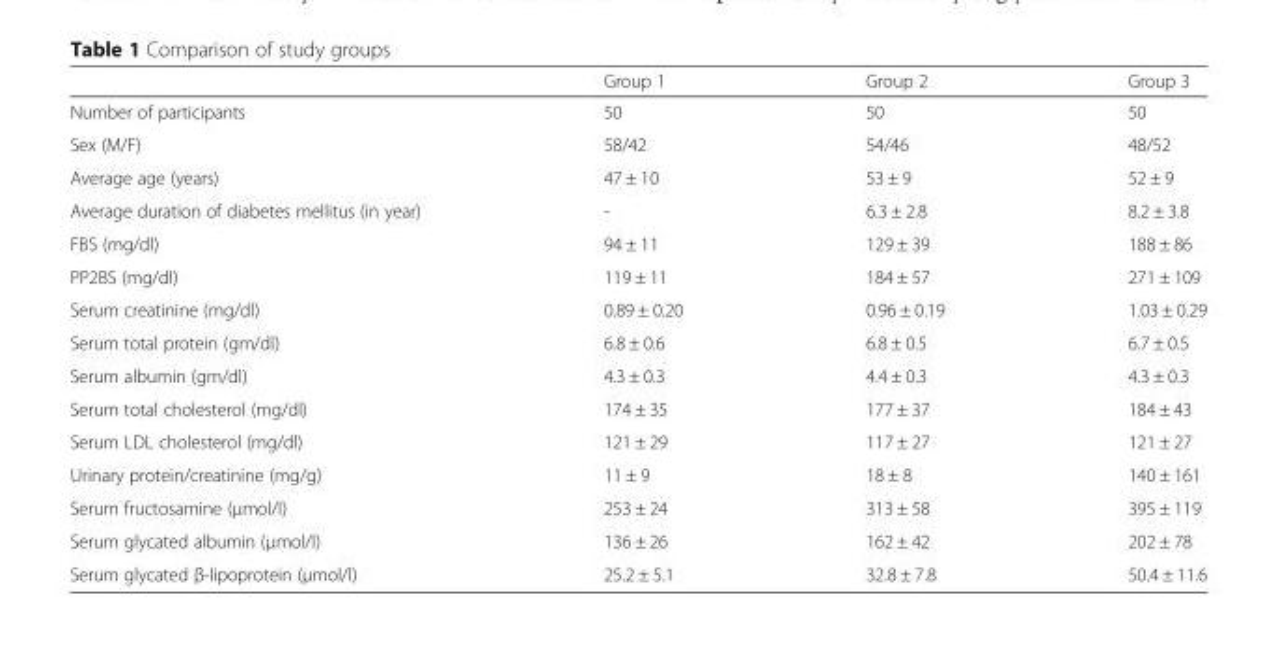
<table><thead><tr><td></td><td>Group 1</td><td>Group 2</td><td>Group 3</td></tr></thead><tbody><tr><td>Number of participants</td><td>50</td><td>50</td><td>50</td></tr><tr><td>Sex (M/F)</td><td>58/42</td><td>54/46</td><td>48/52</td></tr><tr><td>Average age (years)</td><td>47 ± 10</td><td>53 ± 9</td><td>52 ± 9</td></tr><tr><td>Average duration of diabetes mellitus (in year)</td><td>-</td><td>6.3 ± 2.8</td><td>8.2 ± 3.8</td></tr><tr><td>FBS (mg/dl)</td><td>94 ± 11</td><td>129 ± 39</td><td>188 ± 86</td></tr><tr><td>PP2BS (mg/dl)</td><td>119 ± 11</td><td>184 ± 57</td><td>271 ± 109</td></tr><tr><td>Serum creatinine (mg/dl)</td><td>0.89 ± 0.20</td><td>0.96 ± 0.19</td><td>1.03 ± 0.29</td></tr><tr><td>Serum total protein (gm/dl)</td><td>6.8 ± 0.6</td><td>6.8 ± 0.5</td><td>6.7 ± 0.5</td></tr><tr><td>Serum albumin (gm/dl)</td><td>4.3 ± 0.3</td><td>4.4 ± 0.3</td><td>4.3 ± 0.3</td></tr><tr><td>Serum total cholesterol (mg/dl)</td><td>174 ± 35</td><td>177 ± 37</td><td>184 ± 43</td></tr><tr><td>Serum LDL cholesterol (mg/dl)</td><td>121 ± 29</td><td>117 ± 27</td><td>121 ± 27</td></tr><tr><td>Urinary protein/creatinine (mg/g)</td><td>11 ± 9</td><td>18 ± 8</td><td>140 ± 161</td></tr><tr><td>Serum fructosamine (μmol/l)</td><td>253 ± 24</td><td>313 ± 58</td><td>395 ± 119</td></tr><tr><td>Serum glycated albumin (μmol/l)</td><td>136 ± 26</td><td>162 ± 42</td><td>202 ± 78</td></tr><tr><td>Serum glycated β-lipoprotein (μmol/l)</td><td>25.2 ± 5.1</td><td>32.8 ± 7.8</td><td>50.4 ± 11.6</td></tr></tbody></table>